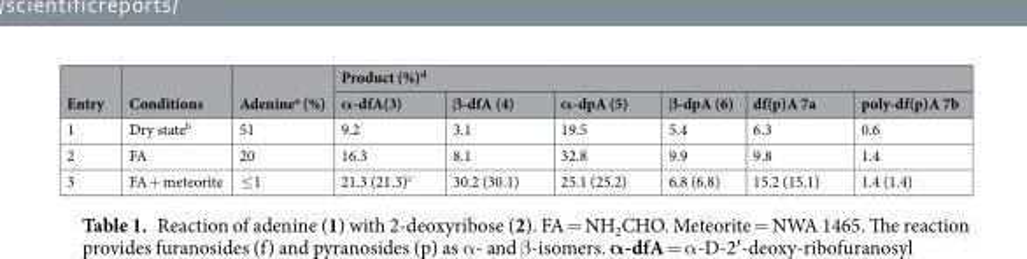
<table><thead><tr><td rowspan="2">Entry</td><td rowspan="2">Conditions</td><td rowspan="2">Adenine<sup>a</sup> (%)</td><td colspan="6">Product (%)<sup>d</sup></td></tr><tr><td>α-dfA(3)</td><td>β-dfA (4)</td><td>α-dpA (5)</td><td>β-dpA (6)</td><td>df(p)A 7a</td><td>poly-df(p)A 7b</td></tr></thead><tbody><tr><td>1</td><td>Dry state<sup>b</sup></td><td>51</td><td>9.2</td><td>3.1</td><td>19.5</td><td>5.4</td><td>6.3</td><td>0.6</td></tr><tr><td>2</td><td>FA</td><td>20</td><td>16.3</td><td>8.1</td><td>32.8</td><td>9.9</td><td>9.8</td><td>1.4</td></tr><tr><td>3</td><td>FA + meteorite</td><td>≤1</td><td>21.3 (21.3)<sup>c</sup></td><td>30.2 (30.1)</td><td>25.1 (25.2)</td><td>6.8 (6.8)</td><td>15.2 (15.1)</td><td>1.4 (1.4)</td></tr></tbody></table>